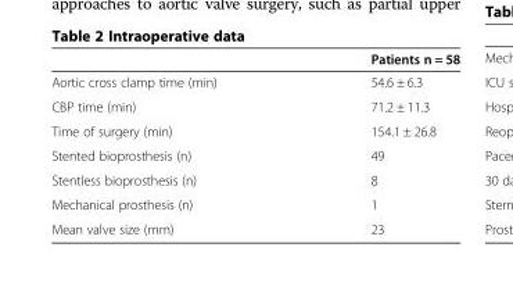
<table><thead><tr><td></td><td>Patients n = 58</td></tr></thead><tbody><tr><td>Aortic cross clamp time (min)</td><td>54.6 ± 6.3</td></tr><tr><td>CBP time (min)</td><td>71.2 ± 11.3</td></tr><tr><td>Time of surgery (min)</td><td>154.1 ± 26.8</td></tr><tr><td>Stented bioprosthesis (n)</td><td>49</td></tr><tr><td>Stentless bioprosthesis (n)</td><td>8</td></tr><tr><td>Mechanical prosthesis (n)</td><td>1</td></tr><tr><td>Mean valve size (mm)</td><td>23</td></tr></tbody></table>